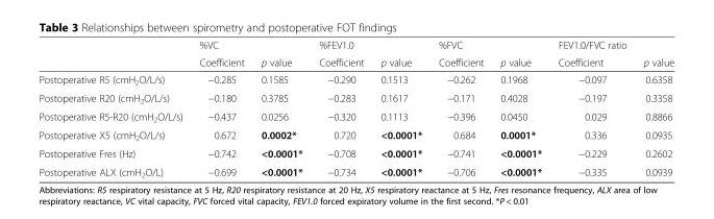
<table><thead><tr><td rowspan="2"></td><td rowspan="2">%VC Coefficient</td><td rowspan="2">p value</td><td rowspan="2">%FEV1.0 Coefficient</td><td rowspan="2">p value</td><td rowspan="2">%FVC Coefficient</td><td rowspan="2">p value</td><td rowspan="2">FEV1.0/FVC ratio Coefficient</td><td rowspan="2">p value</td></tr><tr></tr></thead><tbody><tr><td>Postoperative R5 (cmH<sub>2</sub>O/L/s)</td><td>−0.285</td><td>0.1585</td><td>−0.290</td><td>0.1513</td><td>−0.262</td><td>0.1968</td><td>−0.097</td><td>0.6358</td></tr><tr><td>Postoperative R20 (cmH<sub>2</sub>O/L/s)</td><td>−0.180</td><td>0.3785</td><td>−0.283</td><td>0.1617</td><td>−0.171</td><td>0.4028</td><td>−0.197</td><td>0.3358</td></tr><tr><td>Postoperative R5-R20 (cmH<sub>2</sub>O/L/s)</td><td>−0.437</td><td>0.0256</td><td>−0.320</td><td>0.1113</td><td>−0.396</td><td>0.0450</td><td>0.029</td><td>0.8866</td></tr><tr><td>Postoperative X5 (cmH<sub>2</sub>O/L/s)</td><td>0.672</td><td>0.0002*</td><td>0.720</td><td>&lt;0.0001*</td><td>0.684</td><td>0.0001*</td><td>0.336</td><td>0.0935</td></tr><tr><td>Postoperative Fres (Hz)</td><td>−0.742</td><td>&lt;0.0001*</td><td>−0.708</td><td>&lt;0.0001*</td><td>−0.741</td><td>&lt;0.0001*</td><td>−0.229</td><td>0.2602</td></tr><tr><td>Postoperative ALX (cmH<sub>2</sub>O/L)</td><td>−0.699</td><td>&lt;0.0001*</td><td>−0.734</td><td>&lt;0.0001*</td><td>−0.706</td><td>&lt;0.0001*</td><td>−0.335</td><td>0.0939</td></tr></tbody></table>